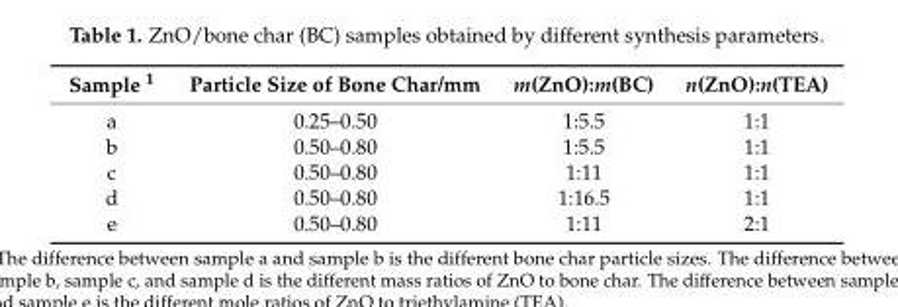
<table><thead><tr><td>Sample <sup>1</sup></td><td>Particle Size of Bone Char/mm</td><td>m(ZnO):m(BC)</td><td>n(ZnO):n(TEA)</td></tr></thead><tbody><tr><td>a</td><td>0.25–0.50</td><td>1:5.5</td><td>1:1</td></tr><tr><td>b</td><td>0.50–0.80</td><td>1:5.5</td><td>1:1</td></tr><tr><td>c</td><td>0.50–0.80</td><td>1:11</td><td>1:1</td></tr><tr><td>d</td><td>0.50–0.80</td><td>1:16.5</td><td>1:1</td></tr><tr><td>e</td><td>0.50–0.80</td><td>1:11</td><td>2:1</td></tr></tbody></table>